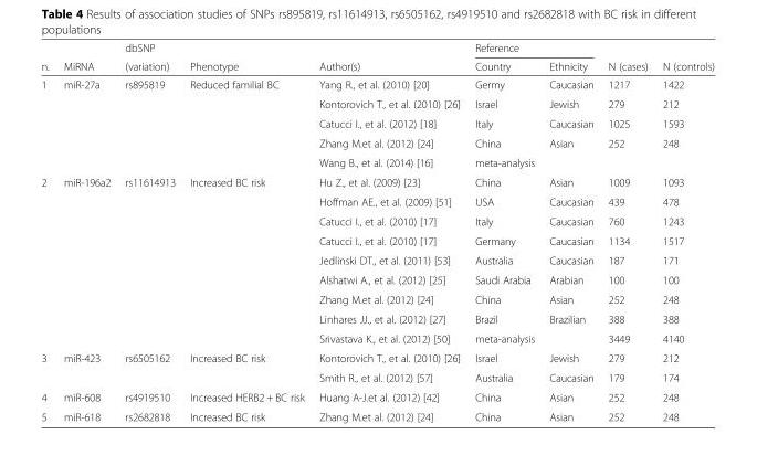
<table><thead><tr><td rowspan="2">n.</td><td rowspan="2">MiRNA</td><td rowspan="2">dbSNP (variation)</td><td rowspan="2">Phenotype</td><td rowspan="2">Author(s)</td><td colspan="2">Reference</td><td rowspan="2">N (cases)</td><td rowspan="2">N (controls)</td></tr><tr><td>Country</td><td>Ethnicity</td></tr></thead><tbody><tr><td rowspan="5">1</td><td>miR-27a</td><td>rs895819</td><td>Reduced familial BC</td><td>Yang R., et al. (2010) [20]</td><td>Germy</td><td>Caucasian</td><td>1217</td><td>1422</td></tr><tr><td></td><td></td><td></td><td>Kontorovich T., et al. (2010) [26]</td><td>Israel</td><td>Jewish</td><td>279</td><td>212</td></tr><tr><td></td><td></td><td></td><td>Catucci I., et al. (2012) [18]</td><td>Italy</td><td>Caucasian</td><td>1025</td><td>1593</td></tr><tr><td></td><td></td><td></td><td>Zhang M.et al. (2012) [24]</td><td>China</td><td>Asian</td><td>252</td><td>248</td></tr><tr><td></td><td></td><td></td><td>Wang B., et al. (2014) [16]</td><td>meta-analysis</td><td></td><td></td><td></td></tr><tr><td rowspan="9">2</td><td>miR-196a2</td><td>rs11614913</td><td>Increased BC risk</td><td>Hu Z., et al. (2009) [23]</td><td>China</td><td>Asian</td><td>1009</td><td>1093</td></tr><tr><td></td><td></td><td></td><td>Hoffman AE., et al. (2009) [51]</td><td>USA</td><td>Caucasian</td><td>439</td><td>478</td></tr><tr><td></td><td></td><td></td><td>Catucci I., et al. (2010) [17]</td><td>Italy</td><td>Caucasian</td><td>760</td><td>1243</td></tr><tr><td></td><td></td><td></td><td>Catucci I., et al. (2010) [17]</td><td>Germany</td><td>Caucasian</td><td>1134</td><td>1517</td></tr><tr><td></td><td></td><td></td><td>Jedlinski DT., et al. (2011) [53]</td><td>Australia</td><td>Caucasian</td><td>187</td><td>171</td></tr><tr><td></td><td></td><td></td><td>Alshatwi A., et al. (2012) [25]</td><td>Saudi Arabia</td><td>Arabian</td><td>100</td><td>100</td></tr><tr><td></td><td></td><td></td><td>Zhang M.et al. (2012) [24]</td><td>China</td><td>Asian</td><td>252</td><td>248</td></tr><tr><td></td><td></td><td></td><td>Linhares JJ., et al. (2012) [27]</td><td>Brazil</td><td>Brazilian</td><td>388</td><td>388</td></tr><tr><td></td><td></td><td></td><td>Srivastava K., et al. (2012) [50]</td><td>meta-analysis</td><td></td><td>3449</td><td>4140</td></tr><tr><td rowspan="2">3</td><td>miR-423</td><td>rs6505162</td><td>Increased BC risk</td><td>Kontorovich T., et al. (2010) [26]</td><td>Israel</td><td>Jewish</td><td>279</td><td>212</td></tr><tr><td></td><td></td><td></td><td>Smith R., et al. (2012) [57]</td><td>Australia</td><td>Caucasian</td><td>179</td><td>174</td></tr><tr><td>4</td><td>miR-608</td><td>rs4919510</td><td>Increased HERB2 + BC risk</td><td>Huang A-J.et al. (2012) [42]</td><td>China</td><td>Asian</td><td>252</td><td>248</td></tr><tr><td>5</td><td>miR-618</td><td>rs2682818</td><td>Increased BC risk</td><td>Zhang M.et al. (2012) [24]</td><td>China</td><td>Asian</td><td>252</td><td>248</td></tr></tbody></table>